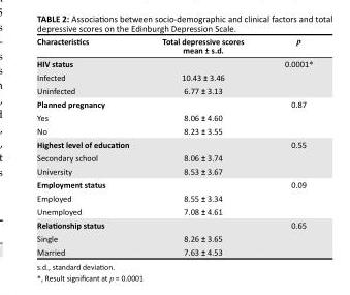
<table><thead><tr><td>Characteristics</td><td>Total depressive scores mean ± s.d.</td><td>p</td></tr></thead><tbody><tr><td>HIV status</td><td></td><td>0.0001*</td></tr><tr><td>Infected</td><td>10.43 ± 3.46</td><td></td></tr><tr><td>Uninfected</td><td>6.77 ± 3.13</td><td></td></tr><tr><td>Planned pregnancy</td><td></td><td>0.87</td></tr><tr><td>Yes</td><td>8.06 ± 4.60</td><td></td></tr><tr><td>No</td><td>8.23 ± 3.55</td><td></td></tr><tr><td>Highest level of education</td><td></td><td>0.55</td></tr><tr><td>Secondary school</td><td>8.06 ± 3.74</td><td></td></tr><tr><td>University</td><td>8.53 ± 3.67</td><td></td></tr><tr><td>Employment status</td><td></td><td>0.09</td></tr><tr><td>Employed</td><td>8.55 ± 3.34</td><td></td></tr><tr><td>Unemployed</td><td>7.08 ± 4.61</td><td></td></tr><tr><td>Relationship status</td><td></td><td>0.65</td></tr><tr><td>Single</td><td>8.26 ± 3.65</td><td></td></tr><tr><td>Married</td><td>7.63 ± 4.53</td><td></td></tr></tbody></table>